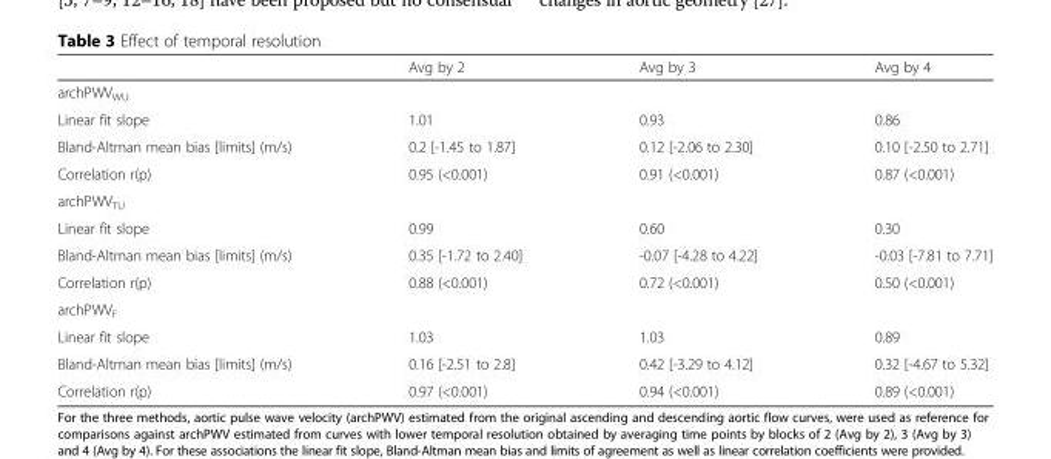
<table><thead><tr><td></td><td>Avg by 2</td><td>Avg by 3</td><td>Avg by 4</td></tr></thead><tbody><tr><td colspan="4">archPWV<sub>WU</sub></td></tr><tr><td>Linear fit slope</td><td>1.01</td><td>0.93</td><td>0.86</td></tr><tr><td>Bland-Altman mean bias [limits] (m/s)</td><td>0.2 [-1.45 to 1.87]</td><td>0.12 [-2.06 to 2.30]</td><td>0.10 [-2.50 to 2.71]</td></tr><tr><td>Correlation r(p)</td><td>0.95 (&lt;0.001)</td><td>0.91 (&lt;0.001)</td><td>0.87 (&lt;0.001)</td></tr><tr><td colspan="4">archPWV<sub>TU</sub></td></tr><tr><td>Linear fit slope</td><td>0.99</td><td>0.60</td><td>0.30</td></tr><tr><td>Bland-Altman mean bias [limits] (m/s)</td><td>0.35 [-1.72 to 2.40]</td><td>-0.07 [-4.28 to 4.22]</td><td>-0.03 [-7.81 to 7.71]</td></tr><tr><td>Correlation r(p)</td><td>0.88 (&lt;0.001)</td><td>0.72 (&lt;0.001)</td><td>0.50 (&lt;0.001)</td></tr><tr><td colspan="4">archPWV<sub>F</sub></td></tr><tr><td>Linear fit slope</td><td>1.03</td><td>1.03</td><td>0.89</td></tr><tr><td>Bland-Altman mean bias [limits] (m/s)</td><td>0.16 [-2.51 to 2.8]</td><td>0.42 [-3.29 to 4.12]</td><td>0.32 [-4.67 to 5.32]</td></tr><tr><td>Correlation r(p)</td><td>0.97 (&lt;0.001)</td><td>0.94 (&lt;0.001)</td><td>0.89 (&lt;0.001)</td></tr></tbody></table>